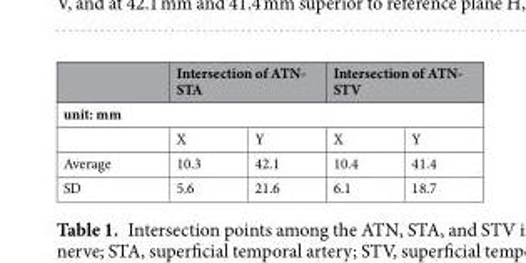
<table><thead><tr><td></td><td colspan="2">Intersection of ATN- STA</td><td colspan="2">Intersection of ATN- STV</td></tr><tr><td colspan="5">unit: mm</td></tr><tr><td></td><td>X</td><td>Y</td><td>X</td><td>Y</td></tr></thead><tbody><tr><td>Average</td><td>10.3</td><td>42.1</td><td>10.4</td><td>41.4</td></tr><tr><td>SD</td><td>5.6</td><td>21.6</td><td>6.1</td><td>18.7</td></tr></tbody></table>